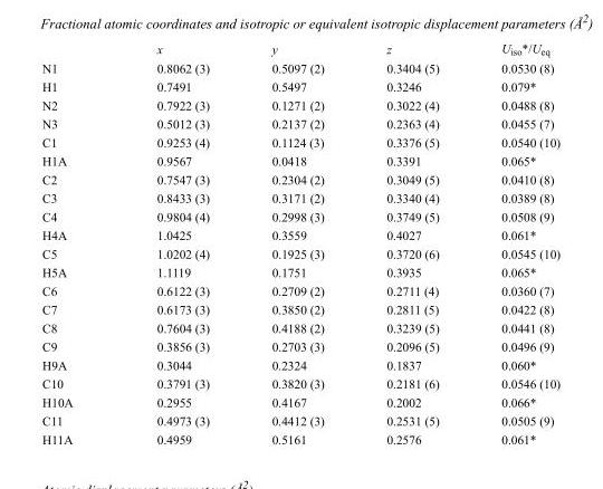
<table><thead><tr><td></td><td>x</td><td>y</td><td>z</td><td>U<sub>iso</sub>*/U<sub>eq</sub></td></tr></thead><tbody><tr><td>N1</td><td>0.8062 (3)</td><td>0.5097 (2)</td><td>0.3404 (5)</td><td>0.0530 (8)</td></tr><tr><td>H1</td><td>0.7491</td><td>0.5497</td><td>0.3246</td><td>0.079*</td></tr><tr><td>N2</td><td>0.7922 (3)</td><td>0.1271 (2)</td><td>0.3022 (4)</td><td>0.0488 (8)</td></tr><tr><td>N3</td><td>0.5012 (3)</td><td>0.2137 (2)</td><td>0.2363 (4)</td><td>0.0455 (7)</td></tr><tr><td>C1</td><td>0.9253 (4)</td><td>0.1124 (3)</td><td>0.3376 (5)</td><td>0.0540 (10)</td></tr><tr><td>H1A</td><td>0.9567</td><td>0.0418</td><td>0.3391</td><td>0.065*</td></tr><tr><td>C2</td><td>0.7547 (3)</td><td>0.2304 (2)</td><td>0.3049 (5)</td><td>0.0410 (8)</td></tr><tr><td>C3</td><td>0.8433 (3)</td><td>0.3171 (2)</td><td>0.3340 (4)</td><td>0.0389 (8)</td></tr><tr><td>C4</td><td>0.9804 (4)</td><td>0.2998 (3)</td><td>0.3749 (5)</td><td>0.0508 (9)</td></tr><tr><td>H4A</td><td>1.0425</td><td>0.3559</td><td>0.4027</td><td>0.061*</td></tr><tr><td>C5</td><td>1.0202 (4)</td><td>0.1925 (3)</td><td>0.3720 (6)</td><td>0.0545 (10)</td></tr><tr><td>H5A</td><td>1.1119</td><td>0.1751</td><td>0.3935</td><td>0.065*</td></tr><tr><td>C6</td><td>0.6122 (3)</td><td>0.2709 (2)</td><td>0.2711 (4)</td><td>0.0360 (7)</td></tr><tr><td>C7</td><td>0.6173 (3)</td><td>0.3850 (2)</td><td>0.2811 (5)</td><td>0.0422 (8)</td></tr><tr><td>C8</td><td>0.7604 (3)</td><td>0.4188 (2)</td><td>0.3239 (5)</td><td>0.0441 (8)</td></tr><tr><td>C9</td><td>0.3856 (3)</td><td>0.2703 (3)</td><td>0.2096 (5)</td><td>0.0496 (9)</td></tr><tr><td>H9A</td><td>0.3044</td><td>0.2324</td><td>0.1837</td><td>0.060*</td></tr><tr><td>C10</td><td>0.3791 (3)</td><td>0.3820 (3)</td><td>0.2181 (6)</td><td>0.0546 (10)</td></tr><tr><td>H10A</td><td>0.2955</td><td>0.4167</td><td>0.2002</td><td>0.066*</td></tr><tr><td>C11</td><td>0.4973 (3)</td><td>0.4412 (3)</td><td>0.2531 (5)</td><td>0.0505 (9)</td></tr><tr><td>H11A</td><td>0.4959</td><td>0.5161</td><td>0.2576</td><td>0.061*</td></tr></tbody></table>